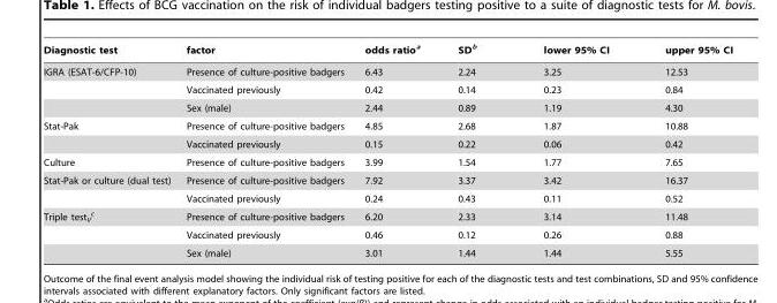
<table><thead><tr><td>Diagnostic test</td><td>factor</td><td>odds ratio<sup>a</sup></td><td>SD<sup>b</sup></td><td>lower 95% CI</td><td>upper 95% CI</td></tr></thead><tbody><tr><td rowspan="3">IGRA (ESAT-6/CFP-10)</td><td>Presence of culture-positive badgers</td><td>6.43</td><td>2.24</td><td>3.25</td><td>12.53</td></tr><tr><td>Vaccinated previously</td><td>0.42</td><td>0.14</td><td>0.23</td><td>0.84</td></tr><tr><td>Sex (male)</td><td>2.44</td><td>0.89</td><td>1.19</td><td>4.30</td></tr><tr><td rowspan="2">Stat-Pak</td><td>Presence of culture-positive badgers</td><td>4.85</td><td>2.68</td><td>1.87</td><td>10.88</td></tr><tr><td>Vaccinated previously</td><td>0.15</td><td>0.22</td><td>0.06</td><td>0.42</td></tr><tr><td>Culture</td><td>Presence of culture-positive badgers</td><td>3.99</td><td>1.54</td><td>1.77</td><td>7.65</td></tr><tr><td rowspan="2">Stat-Pak or culture (dual test)</td><td>Presence of culture-positive badgers</td><td>7.92</td><td>3.37</td><td>3.42</td><td>16.37</td></tr><tr><td>Vaccinated previously</td><td>0.24</td><td>0.43</td><td>0.11</td><td>0.52</td></tr><tr><td rowspan="3">Triple test<sub>V</sub> c</td><td>Presence of culture-positive badgers</td><td>6.20</td><td>2.33</td><td>3.14</td><td>11.48</td></tr><tr><td>Vaccinated previously</td><td>0.46</td><td>0.12</td><td>0.26</td><td>0.88</td></tr><tr><td>Sex (male)</td><td>3.01</td><td>1.44</td><td>1.44</td><td>5.55</td></tr></tbody></table>